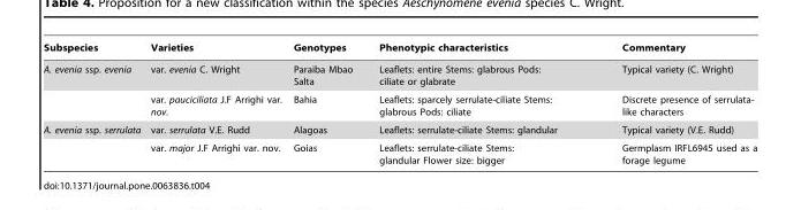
<table><thead><tr><td>Subspecies</td><td>Varieties</td><td>Genotypes</td><td>Phenotypic characteristics</td><td>Commentary</td></tr></thead><tbody><tr><td rowspan="2">A. evenia ssp. evenia</td><td>var. evenia C. Wright</td><td>Paraiba Mbao Salta</td><td>Leaflets: entire Stems: glabrous Pods: ciliate or glabrate</td><td>Typical variety (C. Wright)</td></tr><tr><td>var. pauciciliata J.F Arrighi var. nov.</td><td>Bahia</td><td>Leaflets: sparcely serrulate-ciliate Stems: glabrous Pods: ciliate</td><td>Discrete presence of serrulata- like characters</td></tr><tr><td rowspan="2">A. evenia ssp. serrulata</td><td>var. serrulata V.E. Rudd</td><td>Alagoas</td><td>Leaflets: serrulate-ciliate Stems: glandular</td><td>Typical variety (V.E. Rudd)</td></tr><tr><td>var. major J.F Arrighi var. nov.</td><td>Goias</td><td>Leaflets: serrulate-ciliate Stems: glandular Flower size: bigger</td><td>Germplasm IRFL6945 used as a forage legume</td></tr></tbody></table>